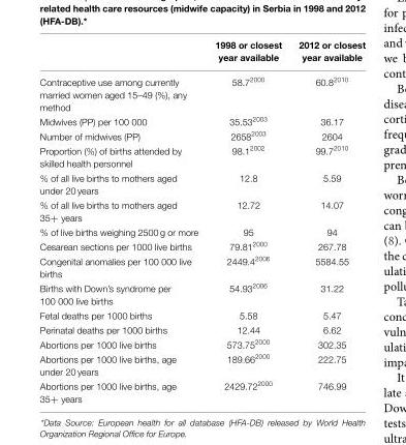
<table><thead><tr><td></td><td>1998 or closest year available</td><td>2012 or closest year available</td></tr></thead><tbody><tr><td>Contraceptive use among currently married women aged 15–49 (%), any method</td><td>58.7<sup>2000</sup></td><td>60.8<sup>2010</sup></td></tr><tr><td>Midwives (PP) per 100 000</td><td>35.53<sup>2003</sup></td><td>36.17</td></tr><tr><td>Number of midwives (PP)</td><td>2658<sup>2003</sup></td><td>2604</td></tr><tr><td>Proportion (%) of births attended by skilled health personnel</td><td>98.1<sup>2002</sup></td><td>99.7<sup>2010</sup></td></tr><tr><td>% of all live births to mothers aged under 20 years</td><td>12.8</td><td>5.59</td></tr><tr><td>% of all live births to mothers aged 35+ years</td><td>12.72</td><td>14.07</td></tr><tr><td>% of live births weighing 2500 g or more</td><td>95</td><td>94</td></tr><tr><td>Cesarean sections per 1000 live births</td><td>79.81<sup>2000</sup></td><td>267.78</td></tr><tr><td>Congenital anomalies per 100 000 live births</td><td>2449.4<sup>2006</sup></td><td>5584.55</td></tr><tr><td>Births with Down’s syndrome per 100 000 live births</td><td>54.93<sup>2006</sup></td><td>31.22</td></tr><tr><td>Fetal deaths per 1000 births</td><td>5.58</td><td>5.47</td></tr><tr><td>Perinatal deaths per 1000 births</td><td>12.44</td><td>6.62</td></tr><tr><td>Abortions per 1000 live births</td><td>573.75<sup>2000</sup></td><td>302.35</td></tr><tr><td>Abortions per 1000 live births, age under 20 years</td><td>189.66<sup>2000</sup></td><td>222.75</td></tr><tr><td>Abortions per 1000 live births, age 35+ years</td><td>2429.72<sup>2000</sup></td><td>746.99</td></tr></tbody></table>